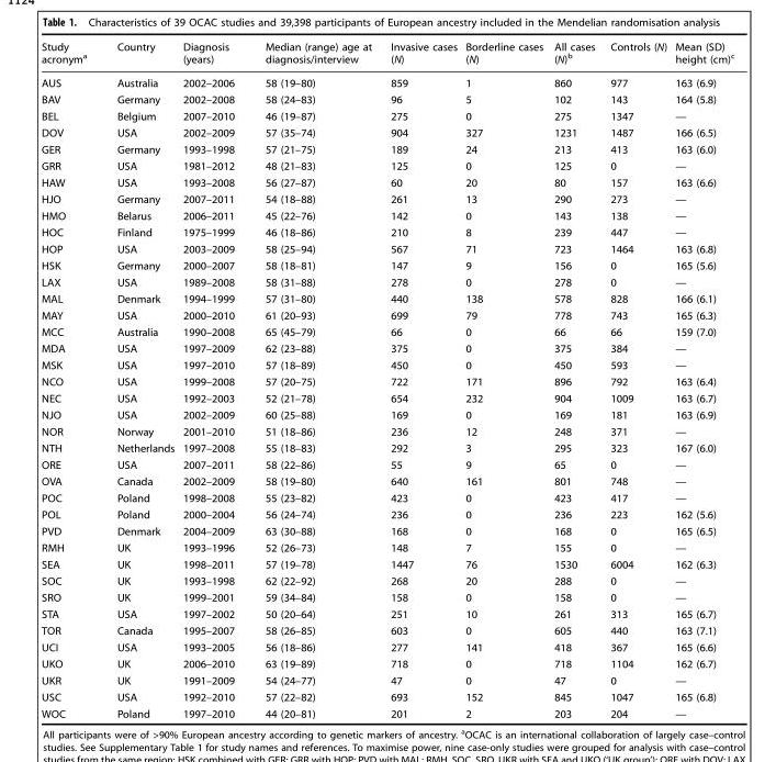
<table><thead><tr><td>Study acronym<sup>a</sup></td><td>Country</td><td>Diagnosis (years)</td><td>Median (range) age at diagnosis/interview</td><td>Invasive cases (N)</td><td>Borderline cases (N)</td><td>All cases (N)<sup>b</sup></td><td>Controls (N)</td><td>Mean (SD) height (cm)<sup>c</sup></td></tr></thead><tbody><tr><td>AUS</td><td>Australia</td><td>2002–2006</td><td>58 (19–80)</td><td>859</td><td>1</td><td>860</td><td>977</td><td>163 (6.9)</td></tr><tr><td>BAV</td><td>Germany</td><td>2002–2008</td><td>58 (24–83)</td><td>96</td><td>5</td><td>102</td><td>143</td><td>164 (5.8)</td></tr><tr><td>BEL</td><td>Belgium</td><td>2007–2010</td><td>46 (19–87)</td><td>275</td><td>0</td><td>275</td><td>1347</td><td>—</td></tr><tr><td>DOV</td><td>USA</td><td>2002–2009</td><td>57 (35–74)</td><td>904</td><td>327</td><td>1231</td><td>1487</td><td>166 (6.5)</td></tr><tr><td>GER</td><td>Germany</td><td>1993–1998</td><td>57 (21–75)</td><td>189</td><td>24</td><td>213</td><td>413</td><td>163 (6.0)</td></tr><tr><td>GRR</td><td>USA</td><td>1981–2012</td><td>48 (21–83)</td><td>125</td><td>0</td><td>125</td><td>0</td><td>—</td></tr><tr><td>HAW</td><td>USA</td><td>1993–2008</td><td>56 (27–87)</td><td>60</td><td>20</td><td>80</td><td>157</td><td>163 (6.6)</td></tr><tr><td>HJO</td><td>Germany</td><td>2007–2011</td><td>54 (18–88)</td><td>261</td><td>13</td><td>290</td><td>273</td><td>—</td></tr><tr><td>HMO</td><td>Belarus</td><td>2006–2011</td><td>45 (22–76)</td><td>142</td><td>0</td><td>143</td><td>138</td><td>—</td></tr><tr><td>HOC</td><td>Finland</td><td>1975–1999</td><td>46 (18–86)</td><td>210</td><td>8</td><td>239</td><td>447</td><td>—</td></tr><tr><td>HOP</td><td>USA</td><td>2003–2009</td><td>58 (25–94)</td><td>567</td><td>71</td><td>723</td><td>1464</td><td>163 (6.8)</td></tr><tr><td>HSK</td><td>Germany</td><td>2000–2007</td><td>58 (18–81)</td><td>147</td><td>9</td><td>156</td><td>0</td><td>165 (5.6)</td></tr><tr><td>LAX</td><td>USA</td><td>1989–2008</td><td>58 (31–88)</td><td>278</td><td>0</td><td>278</td><td>0</td><td>—</td></tr><tr><td>MAL</td><td>Denmark</td><td>1994–1999</td><td>57 (31–80)</td><td>440</td><td>138</td><td>578</td><td>828</td><td>166 (6.1)</td></tr><tr><td>MAY</td><td>USA</td><td>2000–2010</td><td>61 (20–93)</td><td>699</td><td>79</td><td>778</td><td>743</td><td>165 (6.3)</td></tr><tr><td>MCC</td><td>Australia</td><td>1990–2008</td><td>65 (45–79)</td><td>66</td><td>0</td><td>66</td><td>66</td><td>159 (7.0)</td></tr><tr><td>MDA</td><td>USA</td><td>1997–2009</td><td>62 (23–88)</td><td>375</td><td>0</td><td>375</td><td>384</td><td>—</td></tr><tr><td>MSK</td><td>USA</td><td>1997–2010</td><td>57 (18–89)</td><td>450</td><td>0</td><td>450</td><td>593</td><td>—</td></tr><tr><td>NCO</td><td>USA</td><td>1999–2008</td><td>57 (20–75)</td><td>722</td><td>171</td><td>896</td><td>792</td><td>163 (6.4)</td></tr><tr><td>NEC</td><td>USA</td><td>1992–2003</td><td>52 (21–78)</td><td>654</td><td>232</td><td>904</td><td>1009</td><td>163 (6.7)</td></tr><tr><td>NJO</td><td>USA</td><td>2002–2009</td><td>60 (25–88)</td><td>169</td><td>0</td><td>169</td><td>181</td><td>163 (6.9)</td></tr><tr><td>NOR</td><td>Norway</td><td>2001–2010</td><td>51 (18–86)</td><td>236</td><td>12</td><td>248</td><td>371</td><td>—</td></tr><tr><td>NTH</td><td>Netherlands</td><td>1997–2008</td><td>55 (18–83)</td><td>292</td><td>3</td><td>295</td><td>323</td><td>167 (6.0)</td></tr><tr><td>ORE</td><td>USA</td><td>2007–2011</td><td>58 (22–86)</td><td>55</td><td>9</td><td>65</td><td>0</td><td>—</td></tr><tr><td>OVA</td><td>Canada</td><td>2002–2009</td><td>58 (19–80)</td><td>640</td><td>161</td><td>801</td><td>748</td><td>—</td></tr><tr><td>POC</td><td>Poland</td><td>1998–2008</td><td>55 (23–82)</td><td>423</td><td>0</td><td>423</td><td>417</td><td>—</td></tr><tr><td>POL</td><td>Poland</td><td>2000–2004</td><td>56 (24–74)</td><td>236</td><td>0</td><td>236</td><td>223</td><td>162 (5.6)</td></tr><tr><td>PVD</td><td>Denmark</td><td>2004–2009</td><td>63 (30–88)</td><td>168</td><td>0</td><td>168</td><td>0</td><td>165 (6.5)</td></tr><tr><td>RMH</td><td>UK</td><td>1993–1996</td><td>52 (26–73)</td><td>148</td><td>7</td><td>155</td><td>0</td><td>—</td></tr><tr><td>SEA</td><td>UK</td><td>1998–2011</td><td>57 (19–78)</td><td>1447</td><td>76</td><td>1530</td><td>6004</td><td>162 (6.3)</td></tr><tr><td>SOC</td><td>UK</td><td>1993–1998</td><td>62 (22–92)</td><td>268</td><td>20</td><td>288</td><td>0</td><td>—</td></tr><tr><td>SRO</td><td>UK</td><td>1999–2001</td><td>59 (34–84)</td><td>158</td><td>0</td><td>158</td><td>0</td><td>—</td></tr><tr><td>STA</td><td>USA</td><td>1997–2002</td><td>50 (20–64)</td><td>251</td><td>10</td><td>261</td><td>313</td><td>165 (6.7)</td></tr><tr><td>TOR</td><td>Canada</td><td>1995–2007</td><td>58 (26–85)</td><td>603</td><td>0</td><td>605</td><td>440</td><td>163 (7.1)</td></tr><tr><td>UCI</td><td>USA</td><td>1993–2005</td><td>56 (18–86)</td><td>277</td><td>141</td><td>418</td><td>367</td><td>165 (6.6)</td></tr><tr><td>UKO</td><td>UK</td><td>2006–2010</td><td>63 (19–89)</td><td>718</td><td>0</td><td>718</td><td>1104</td><td>162 (6.7)</td></tr><tr><td>UKR</td><td>UK</td><td>1991–2009</td><td>54 (24–77)</td><td>47</td><td>0</td><td>47</td><td>0</td><td>—</td></tr><tr><td>USC</td><td>USA</td><td>1992–2010</td><td>57 (22–82)</td><td>693</td><td>152</td><td>845</td><td>1047</td><td>165 (6.8)</td></tr><tr><td>WOC</td><td>Poland</td><td>1997–2010</td><td>44 (20–81)</td><td>201</td><td>2</td><td>203</td><td>204</td><td>—</td></tr></tbody></table>